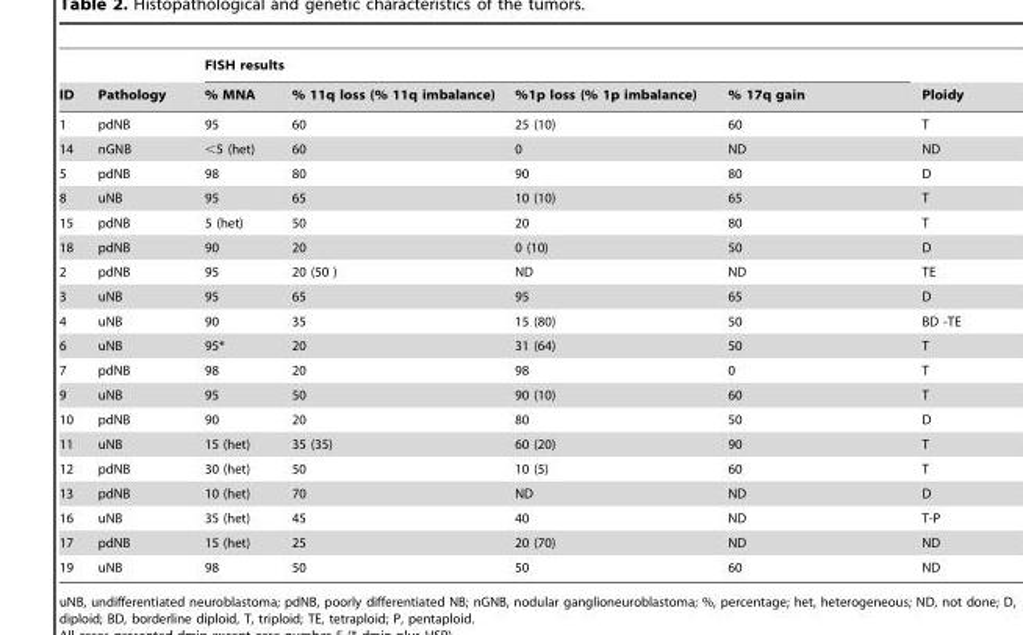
<table><thead><tr><td rowspan="2">ID</td><td rowspan="2">Pathology</td><td colspan="4">FISH results</td><td rowspan="2">Ploidy</td></tr><tr><td>% MNA</td><td>% 11q loss (% 11q imbalance)</td><td>%1p loss (% 1p imbalance)</td><td>% 17q gain</td></tr></thead><tbody><tr><td>1</td><td>pdNB</td><td>95</td><td>60</td><td>25 (10)</td><td>60</td><td>T</td></tr><tr><td>14</td><td>nGNB</td><td>&lt;5 (het)</td><td>60</td><td>0</td><td>ND</td><td>ND</td></tr><tr><td>5</td><td>pdNB</td><td>98</td><td>80</td><td>90</td><td>80</td><td>D</td></tr><tr><td>8</td><td>uNB</td><td>95</td><td>65</td><td>10 (10)</td><td>65</td><td>T</td></tr><tr><td>15</td><td>pdNB</td><td>5 (het)</td><td>50</td><td>20</td><td>80</td><td>T</td></tr><tr><td>18</td><td>pdNB</td><td>90</td><td>20</td><td>0 (10)</td><td>50</td><td>D</td></tr><tr><td>2</td><td>pdNB</td><td>95</td><td>20 (50 )</td><td>ND</td><td>ND</td><td>TE</td></tr><tr><td>3</td><td>uNB</td><td>95</td><td>65</td><td>95</td><td>65</td><td>D</td></tr><tr><td>4</td><td>uNB</td><td>90</td><td>35</td><td>15 (80)</td><td>50</td><td>BD -TE</td></tr><tr><td>6</td><td>uNB</td><td>95*</td><td>20</td><td>31 (64)</td><td>50</td><td>T</td></tr><tr><td>7</td><td>pdNB</td><td>98</td><td>20</td><td>98</td><td>0</td><td>T</td></tr><tr><td>9</td><td>uNB</td><td>95</td><td>50</td><td>90 (10)</td><td>60</td><td>T</td></tr><tr><td>10</td><td>pdNB</td><td>90</td><td>20</td><td>80</td><td>50</td><td>D</td></tr><tr><td>11</td><td>uNB</td><td>15 (het)</td><td>35 (35)</td><td>60 (20)</td><td>90</td><td>T</td></tr><tr><td>12</td><td>pdNB</td><td>30 (het)</td><td>50</td><td>10 (5)</td><td>60</td><td>T</td></tr><tr><td>13</td><td>pdNB</td><td>10 (het)</td><td>70</td><td>ND</td><td>ND</td><td>D</td></tr><tr><td>16</td><td>uNB</td><td>35 (het)</td><td>45</td><td>40</td><td>ND</td><td>T-P</td></tr><tr><td>17</td><td>pdNB</td><td>15 (het)</td><td>25</td><td>20 (70)</td><td>ND</td><td>ND</td></tr><tr><td>19</td><td>uNB</td><td>98</td><td>50</td><td>50</td><td>60</td><td>ND</td></tr></tbody></table>